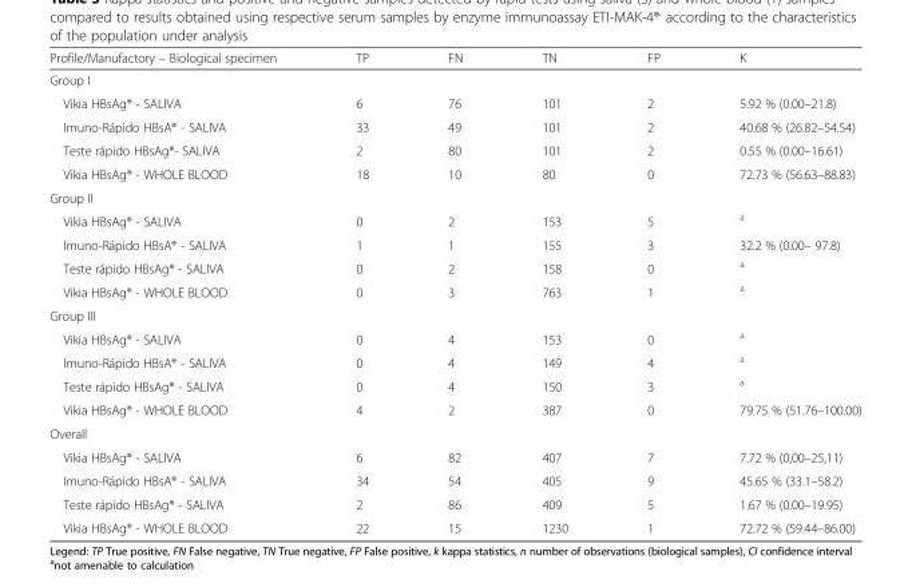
<table><thead><tr><td>Profile/Manufactory – Biological specimen</td><td>TP</td><td>FN</td><td>TN</td><td>FP</td><td>K</td></tr></thead><tbody><tr><td colspan="6">Group I</td></tr><tr><td>Vikia HBsAg® - SALIVA</td><td>6</td><td>76</td><td>101</td><td>2</td><td>5.92 % (0.00–21.8)</td></tr><tr><td>Imuno-Rápido HBsA® - SALIVA</td><td>33</td><td>49</td><td>101</td><td>2</td><td>40.68 % (26.82–54.54)</td></tr><tr><td>Teste rápido HBsAg®- SALIVA</td><td>2</td><td>80</td><td>101</td><td>2</td><td>0.55 % (0.00–16.61)</td></tr><tr><td>Vikia HBsAg® - WHOLE BLOOD</td><td>18</td><td>10</td><td>80</td><td>0</td><td>72.73 % (56.63–88.83)</td></tr><tr><td colspan="6">Group II</td></tr><tr><td>Vikia HBsAg® - SALIVA</td><td>0</td><td>2</td><td>153</td><td>5</td><td><sup>a</sup></td></tr><tr><td>Imuno-Rápido HBsA® - SALIVA</td><td>1</td><td>1</td><td>155</td><td>3</td><td>32.2 % (0.00– 97.8)</td></tr><tr><td>Teste rápido HBsAg® - SALIVA</td><td>0</td><td>2</td><td>158</td><td>0</td><td><sup>a</sup></td></tr><tr><td>Vikia HBsAg® - WHOLE BLOOD</td><td>0</td><td>3</td><td>763</td><td>1</td><td><sup>a</sup></td></tr><tr><td colspan="6">Group III</td></tr><tr><td>Vikia HBsAg® - SALIVA</td><td>0</td><td>4</td><td>153</td><td>0</td><td><sup>a</sup></td></tr><tr><td>Imuno-Rápido HBsA® - SALIVA</td><td>0</td><td>4</td><td>149</td><td>4</td><td><sup>a</sup></td></tr><tr><td>Teste rápido HBsAg® - SALIVA</td><td>0</td><td>4</td><td>150</td><td>3</td><td><sup>a</sup></td></tr><tr><td>Vikia HBsAg® - WHOLE BLOOD</td><td>4</td><td>2</td><td>387</td><td>0</td><td>79.75 % (51.76–100.00)</td></tr><tr><td colspan="6">Overall</td></tr><tr><td>Vikia HBsAg® - SALIVA</td><td>6</td><td>82</td><td>407</td><td>7</td><td>7.72 % (0,00–25,11)</td></tr><tr><td>Imuno-Rápido HBsA® - SALIVA</td><td>34</td><td>54</td><td>405</td><td>9</td><td>45.65 % (33.1–58.2)</td></tr><tr><td>Teste rápido HBsAg® - SALIVA</td><td>2</td><td>86</td><td>409</td><td>5</td><td>1.67 % (0.00–19.95)</td></tr><tr><td>Vikia HBsAg® - WHOLE BLOOD</td><td>22</td><td>15</td><td>1230</td><td>1</td><td>72.72 % (59.44–86.00)</td></tr></tbody></table>